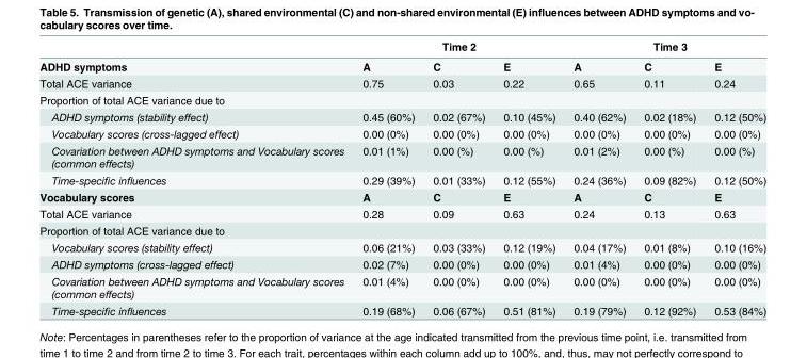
<table><thead><tr><td rowspan="2">ADHD symptoms</td><td colspan="3">Time 2</td><td colspan="3">Time 3</td></tr><tr><td>A</td><td>C</td><td>E</td><td>A</td><td>C</td><td>E</td></tr></thead><tbody><tr><td>Total ACE variance</td><td>0.75</td><td>0.03</td><td>0.22</td><td>0.65</td><td>0.11</td><td>0.24</td></tr><tr><td colspan="7">Proportion of total ACE variance due to</td></tr><tr><td>ADHD symptoms (stability effect)</td><td>0.45 (60%)</td><td>0.02 (67%)</td><td>0.10 (45%)</td><td>0.40 (62%)</td><td>0.02 (18%)</td><td>0.12 (50%)</td></tr><tr><td>Vocabulary scores (cross-lagged effect)</td><td>0.00 (0%)</td><td>0.00 (0%)</td><td>0.00 (0%)</td><td>0.00 (0%)</td><td>0.00 (0%)</td><td>0.00 (0%)</td></tr><tr><td>Covariation between ADHD symptoms and Vocabulary scores (common effects)</td><td>0.01 (1%)</td><td>0.00 (%)</td><td>0.00 (%)</td><td>0.01 (2%)</td><td>0.00 (%)</td><td>0.00 (%)</td></tr><tr><td>Time-specific influences</td><td>0.29 (39%)</td><td>0.01 (33%)</td><td>0.12 (55%)</td><td>0.24 (36%)</td><td>0.09 (82%)</td><td>0.12 (50%)</td></tr><tr><td>Vocabulary scores</td><td>A</td><td>C</td><td>E</td><td>A</td><td>C</td><td>E</td></tr><tr><td>Total ACE variance</td><td>0.28</td><td>0.09</td><td>0.63</td><td>0.24</td><td>0.13</td><td>0.63</td></tr><tr><td colspan="7">Proportion of total ACE variance due to</td></tr><tr><td>Vocabulary scores (stability effect)</td><td>0.06 (21%)</td><td>0.03 (33%)</td><td>0.12 (19%)</td><td>0.04 (17%)</td><td>0.01 (8%)</td><td>0.10 (16%)</td></tr><tr><td>ADHD symptoms (cross-lagged effect)</td><td>0.02 (7%)</td><td>0.00 (0%)</td><td>0.00 (0%)</td><td>0.01 (4%)</td><td>0.00 (0%)</td><td>0.00 (0%)</td></tr><tr><td>Covariation between ADHD symptoms and Vocabulary scores (common effects)</td><td>0.01 (4%)</td><td>0.00 (0%)</td><td>0.00 (0%)</td><td>0.00 (0%)</td><td>0.00 (0%)</td><td>0.00 (0%)</td></tr><tr><td>Time-specific influences</td><td>0.19 (68%)</td><td>0.06 (67%)</td><td>0.51 (81%)</td><td>0.19 (79%)</td><td>0.12 (92%)</td><td>0.53 (84%)</td></tr></tbody></table>